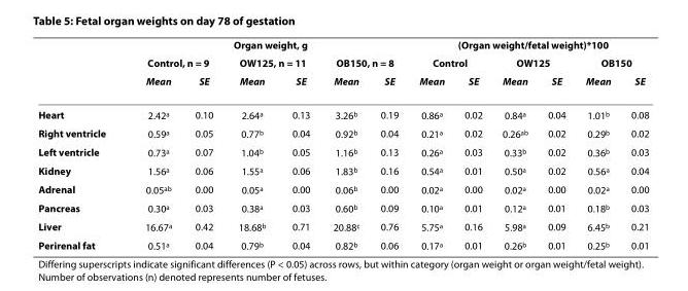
<table><thead><tr><td rowspan="3"></td><td colspan="6">Organ weight, g</td><td colspan="6">(Organ weight/fetal weight)*100</td></tr><tr><td colspan="2">Control, n = 9</td><td colspan="2">OW125, n = 11</td><td colspan="2">OB150, n = 8</td><td colspan="2">Control</td><td colspan="2">OW125</td><td colspan="2">OB150</td></tr><tr><td>Mean</td><td>SE</td><td>Mean</td><td>SE</td><td>Mean</td><td>SE</td><td>Mean</td><td>SE</td><td>Mean</td><td>SE</td><td>Mean</td><td>SE</td></tr></thead><tbody><tr><td>Heart</td><td>2.42<sup>a</sup></td><td>0.10</td><td>2.64<sup>a</sup></td><td>0.13</td><td>3.26<sup>b</sup></td><td>0.19</td><td>0.86<sup>a</sup></td><td>0.02</td><td>0.84<sup>a</sup></td><td>0.04</td><td>1.01<sup>b</sup></td><td>0.08</td></tr><tr><td>Right ventricle</td><td>0.59<sup>a</sup></td><td>0.05</td><td>0.77<sup>b</sup></td><td>0.04</td><td>0.92<sup>b</sup></td><td>0.04</td><td>0.21<sup>a</sup></td><td>0.02</td><td>0.26<sup>ab</sup></td><td>0.02</td><td>0.29<sup>b</sup></td><td>0.02</td></tr><tr><td>Left ventricle</td><td>0.73<sup>a</sup></td><td>0.07</td><td>1.04<sup>b</sup></td><td>0.05</td><td>1.16<sup>b</sup></td><td>0.13</td><td>0.26<sup>a</sup></td><td>0.03</td><td>0.33<sup>b</sup></td><td>0.02</td><td>0.36<sup>b</sup></td><td>0.03</td></tr><tr><td>Kidney</td><td>1.56<sup>a</sup></td><td>0.06</td><td>1.55<sup>a</sup></td><td>0.06</td><td>1.83<sup>b</sup></td><td>0.16</td><td>0.54<sup>a</sup></td><td>0.01</td><td>0.50<sup>a</sup></td><td>0.02</td><td>0.56<sup>a</sup></td><td>0.04</td></tr><tr><td>Adrenal</td><td>0.05<sup>ab</sup></td><td>0.00</td><td>0.05<sup>a</sup></td><td>0.00</td><td>0.06<sup>b</sup></td><td>0.00</td><td>0.02<sup>a</sup></td><td>0.00</td><td>0.02<sup>a</sup></td><td>0.00</td><td>0.02<sup>a</sup></td><td>0.00</td></tr><tr><td>Pancreas</td><td>0.30<sup>a</sup></td><td>0.03</td><td>0.38<sup>a</sup></td><td>0.03</td><td>0.60<sup>b</sup></td><td>0.09</td><td>0.10<sup>a</sup></td><td>0.01</td><td>0.12<sup>a</sup></td><td>0.01</td><td>0.18<sup>b</sup></td><td>0.03</td></tr><tr><td>Liver</td><td>16.67<sup>a</sup></td><td>0.42</td><td>18.68<sup>b</sup></td><td>0.71</td><td>20.88<sup>c</sup></td><td>0.76</td><td>5.75<sup>a</sup></td><td>0.16</td><td>5.98<sup>a</sup></td><td>0.09</td><td>6.45<sup>b</sup></td><td>0.21</td></tr><tr><td>Perirenal fat</td><td>0.51<sup>a</sup></td><td>0.04</td><td>0.79<sup>b</sup></td><td>0.04</td><td>0.82<sup>b</sup></td><td>0.06</td><td>0.17<sup>a</sup></td><td>0.01</td><td>0.26<sup>b</sup></td><td>0.01</td><td>0.25<sup>b</sup></td><td>0.01</td></tr></tbody></table>